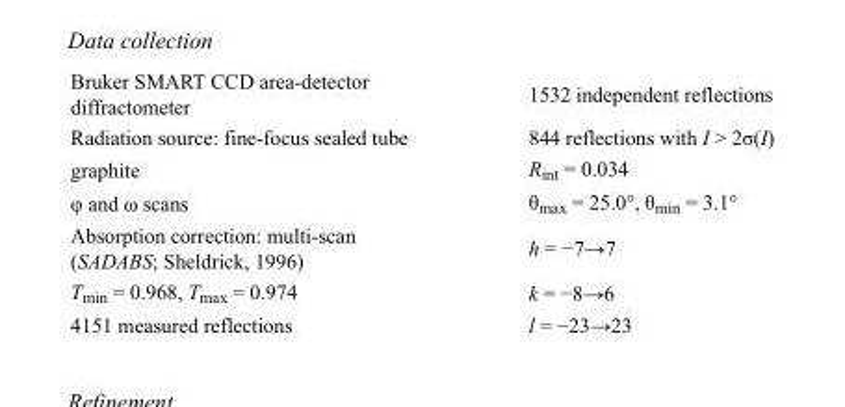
<table><tbody><tr><td>Bruker SMART CCD area-detector diffractometer</td><td>1532 independent reflections</td></tr><tr><td>Radiation source: fine-focus sealed tube</td><td>844 reflections with I &gt; 2σ(I)</td></tr><tr><td>graphite</td><td>R<sub>int</sub> = 0.034</td></tr><tr><td>φ and ω scans</td><td>θ<sub>max</sub> = 25.0°, θ<sub>min</sub> = 3.1°</td></tr><tr><td>Absorption correction: multi-scan (SADABS; Sheldrick, 1996)</td><td>h = −7→7</td></tr><tr><td>T<sub>min</sub> = 0.968, T<sub>max</sub> = 0.974</td><td>k = −8→6</td></tr><tr><td>4151 measured reflections</td><td>l = −23→23</td></tr></tbody></table>